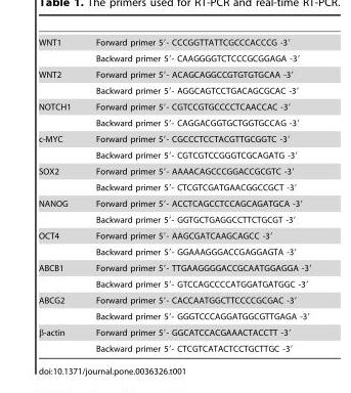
<table><tbody><tr><td rowspan="2">WNT1</td><td>Forward primer 5′- CCCGGTTATTCGCCCACCCG -3′</td></tr><tr><td>Backward primer 5′- CAAGGGGTCTCCCGCGGAGA -3′</td></tr><tr><td rowspan="2">WNT2</td><td>Forward primer 5′- ACAGCAGGCCGTGTGTGCAA -3′</td></tr><tr><td>Backward primer 5′- AGGCAGTCCTGACAGCGCAC -3′</td></tr><tr><td rowspan="2">NOTCH1</td><td>Forward primer 5′- CGTCCGTGCCCCTCAACCAC -3′</td></tr><tr><td>Backward primer 5′- CAGGACGGTGCTGGTGCCAG -3′</td></tr><tr><td rowspan="2">c-MYC</td><td>Forward primer 5′- CGCCCTCCTACGTTGCGGTC -3′</td></tr><tr><td>Backward primer 5′- CGTCGTCCGGGTCGCAGATG -3′</td></tr><tr><td rowspan="2">SOX2</td><td>Forward primer 5′- AAAACAGCCCGGACCGCGTC -3′</td></tr><tr><td>Backward primer 5′- CTCGTCGATGAACGGCCGCT -3′</td></tr><tr><td rowspan="2">NANOG</td><td>Forward primer 5′- ACCTCAGCCTCCAGCAGATGCA -3′</td></tr><tr><td>Backward primer 5′- GGTGCTGAGGCCTTCTGCGT -3′</td></tr><tr><td rowspan="2">OCT4</td><td>Forward primer 5′- AAGCGATCAAGCAGCC -3′</td></tr><tr><td>Backward primer 5′- GGAAAGGGACCGAGGAGTA -3′</td></tr><tr><td rowspan="2">ABCB1</td><td>Forward primer 5′- TTGAAGGGGACCGCAATGGAGGA -3′</td></tr><tr><td>Backward primer 5′- GTCCAGCCCCATGGATGATGGC -3′</td></tr><tr><td rowspan="2">ABCG2</td><td>Forward primer 5′- CACCAATGGCTTCCCCGCGAC -3′</td></tr><tr><td>Backward primer 5′- GGGTCCCAGGATGGCGTTGAGA -3′</td></tr><tr><td rowspan="2">β-actin</td><td>Forward primer 5′- GGCATCCACGAAACTACCTT -3′</td></tr><tr><td>Backward primer 5′- CTCGTCATACTCCTGCTTGC -3′</td></tr></tbody></table>